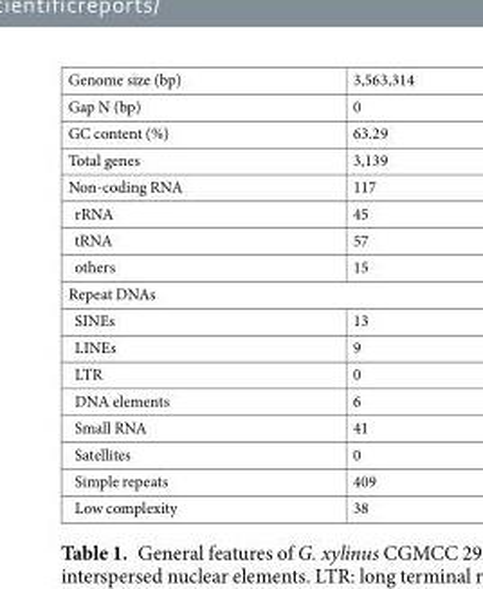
<table><tbody><tr><td>Genome size (bp)</td><td>3,563,314</td></tr><tr><td>Gap N (bp)</td><td>0</td></tr><tr><td>GC content (%)</td><td>63.29</td></tr><tr><td>Total genes</td><td>3,139</td></tr><tr><td>Non-coding RNA</td><td>117</td></tr><tr><td>rRNA</td><td>45</td></tr><tr><td>tRNA</td><td>57</td></tr><tr><td>others</td><td>15</td></tr><tr><td colspan="2">Repeat DNAs</td></tr><tr><td>SINEs</td><td>13</td></tr><tr><td>LINEs</td><td>9</td></tr><tr><td>LTR</td><td>0</td></tr><tr><td>DNA elements</td><td>6</td></tr><tr><td>Small RNA</td><td>41</td></tr><tr><td>Satellites</td><td>0</td></tr><tr><td>Simple repeats</td><td>409</td></tr><tr><td>Low complexity</td><td>38</td></tr></tbody></table>